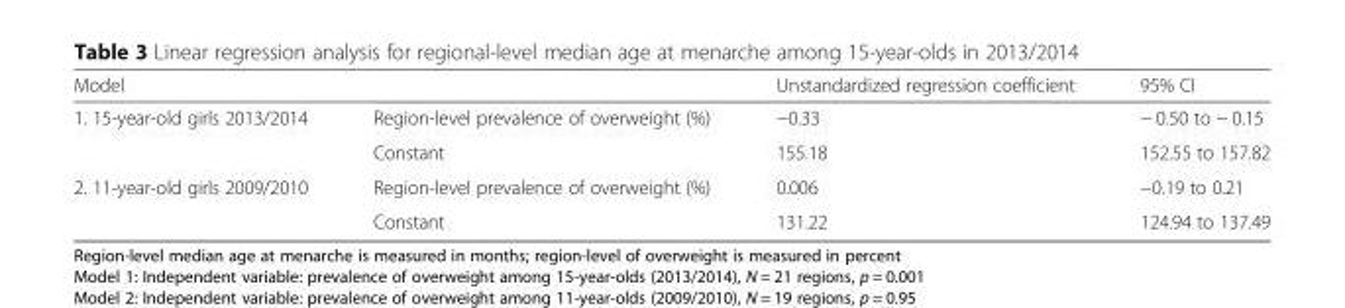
<table><thead><tr><td>Model</td><td></td><td>Unstandardized regression coefficient</td><td>95% CI</td></tr></thead><tbody><tr><td rowspan="2">1. 15-year-old girls 2013/2014</td><td>Region-level prevalence of overweight (%)</td><td>−0.33</td><td>− 0.50 to − 0.15</td></tr><tr><td>Constant</td><td>155.18</td><td>152.55 to 157.82</td></tr><tr><td rowspan="2">2. 11-year-old girls 2009/2010</td><td>Region-level prevalence of overweight (%)</td><td>0.006</td><td>−0.19 to 0.21</td></tr><tr><td>Constant</td><td>131.22</td><td>124.94 to 137.49</td></tr></tbody></table>